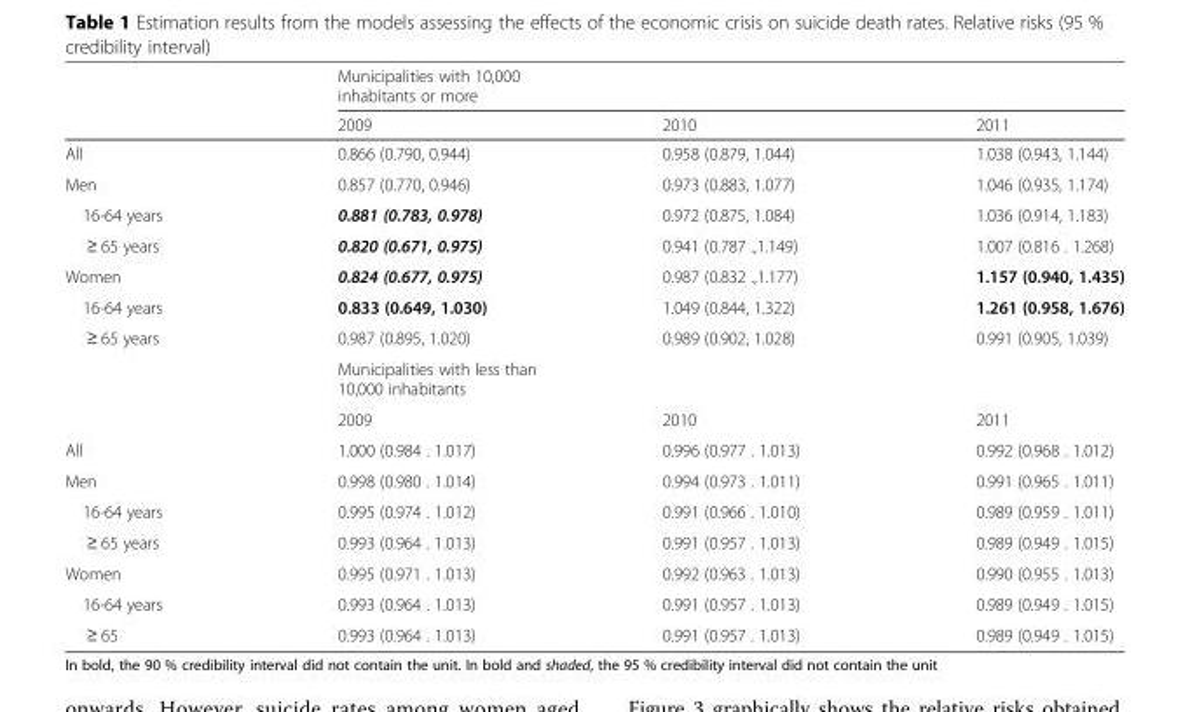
<table><thead><tr><td rowspan="2"></td><td colspan="3">Municipalities with 10,000 inhabitants or more</td></tr><tr><td>2009</td><td>2010</td><td>2011</td></tr></thead><tbody><tr><td>All</td><td>0.866 (0.790, 0.944)</td><td>0.958 (0.879, 1.044)</td><td>1.038 (0.943, 1.144)</td></tr><tr><td>Men</td><td>0.857 (0.770, 0.946)</td><td>0.973 (0.883, 1.077)</td><td>1.046 (0.935, 1.174)</td></tr><tr><td>16-64 years</td><td>0.881 (0.783, 0.978)</td><td>0.972 (0.875, 1.084)</td><td>1.036 (0.914, 1.183)</td></tr><tr><td>≥ 65 years</td><td>0.820 (0.671, 0.975)</td><td>0.941 (0.787 .,1.149)</td><td>1.007 (0.816 . 1.268)</td></tr><tr><td>Women</td><td>0.824 (0.677, 0.975)</td><td>0.987 (0.832 .,1.177)</td><td>1.157 (0.940, 1.435)</td></tr><tr><td>16-64 years</td><td>0.833 (0.649, 1.030)</td><td>1.049 (0.844, 1.322)</td><td>1.261 (0.958, 1.676)</td></tr><tr><td rowspan="3">≥ 65 years</td><td>0.987 (0.895, 1.020)</td><td>0.989 (0.902, 1.028)</td><td>0.991 (0.905, 1.039)</td></tr><tr><td colspan="3">Municipalities with less than 10,000 inhabitants</td></tr><tr><td>2009</td><td>2010</td><td>2011</td></tr><tr><td>All</td><td>1.000 (0.984 . 1.017)</td><td>0.996 (0.977 . 1.013)</td><td>0.992 (0.968 . 1.012)</td></tr><tr><td>Men</td><td>0.998 (0.980 . 1.014)</td><td>0.994 (0.973 . 1.011)</td><td>0.991 (0.965 . 1.011)</td></tr><tr><td>16-64 years</td><td>0.995 (0.974 . 1.012)</td><td>0.991 (0.966 . 1.010)</td><td>0.989 (0.959 . 1.011)</td></tr><tr><td>≥ 65 years</td><td>0.993 (0.964 . 1.013)</td><td>0.991 (0.957 . 1.013)</td><td>0.989 (0.949 . 1.015)</td></tr><tr><td>Women</td><td>0.995 (0.971 . 1.013)</td><td>0.992 (0.963 . 1.013)</td><td>0.990 (0.955 . 1.013)</td></tr><tr><td>16-64 years</td><td>0.993 (0.964 . 1.013)</td><td>0.991 (0.957 . 1.013)</td><td>0.989 (0.949 . 1.015)</td></tr><tr><td>≥ 65</td><td>0.993 (0.964 . 1.013)</td><td>0.991 (0.957 . 1.013)</td><td>0.989 (0.949 . 1.015)</td></tr></tbody></table>